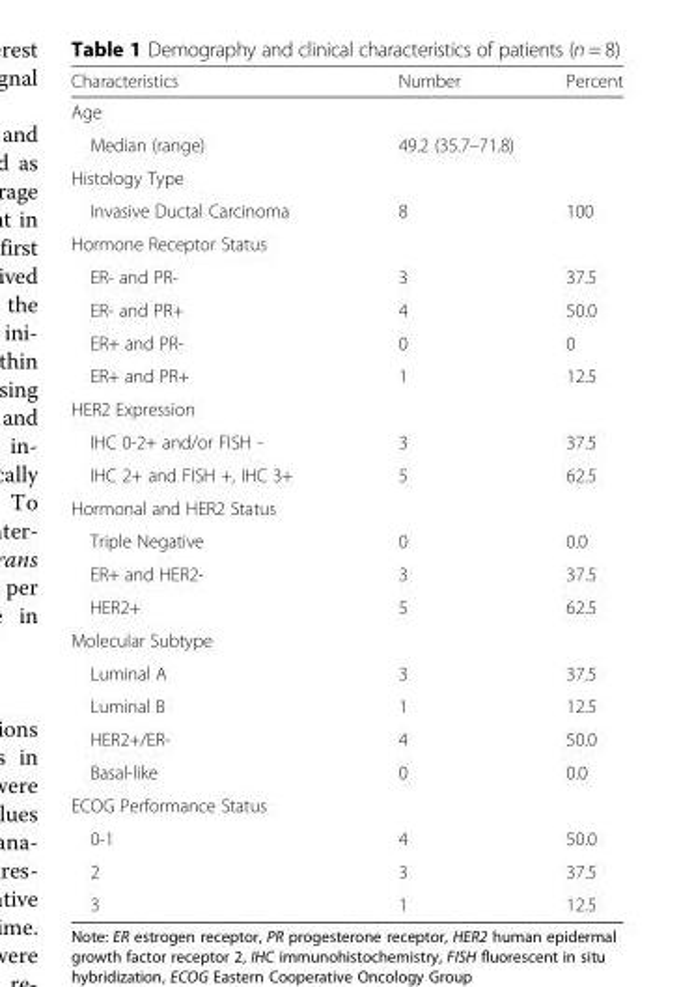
<table><thead><tr><td>Characteristics</td><td>Number</td><td>Percent</td></tr></thead><tbody><tr><td colspan="3">Age</td></tr><tr><td>Median (range)</td><td colspan="2">49.2 (35.7–71.8)</td></tr><tr><td colspan="3">Histology Type</td></tr><tr><td>Invasive Ductal Carcinoma</td><td>8</td><td>100</td></tr><tr><td colspan="3">Hormone Receptor Status</td></tr><tr><td>ER- and PR-</td><td>3</td><td>37.5</td></tr><tr><td>ER- and PR+</td><td>4</td><td>50.0</td></tr><tr><td>ER+ and PR-</td><td>0</td><td>0</td></tr><tr><td>ER+ and PR+</td><td>1</td><td>12.5</td></tr><tr><td colspan="3">HER2 Expression</td></tr><tr><td>IHC 0-2+ and/or FISH -</td><td>3</td><td>37.5</td></tr><tr><td>IHC 2+ and FISH +, IHC 3+</td><td>5</td><td>62.5</td></tr><tr><td colspan="3">Hormonal and HER2 Status</td></tr><tr><td>Triple Negative</td><td>0</td><td>0.0</td></tr><tr><td>ER+ and HER2-</td><td>3</td><td>37.5</td></tr><tr><td>HER2+</td><td>5</td><td>62.5</td></tr><tr><td colspan="3">Molecular Subtype</td></tr><tr><td>Luminal A</td><td>3</td><td>37.5</td></tr><tr><td>Luminal B</td><td>1</td><td>12.5</td></tr><tr><td>HER2+/ER-</td><td>4</td><td>50.0</td></tr><tr><td>Basal-like</td><td>0</td><td>0.0</td></tr><tr><td colspan="3">ECOG Performance Status</td></tr><tr><td>0-1</td><td>4</td><td>50.0</td></tr><tr><td>2</td><td>3</td><td>37.5</td></tr><tr><td>3</td><td>1</td><td>12.5</td></tr></tbody></table>